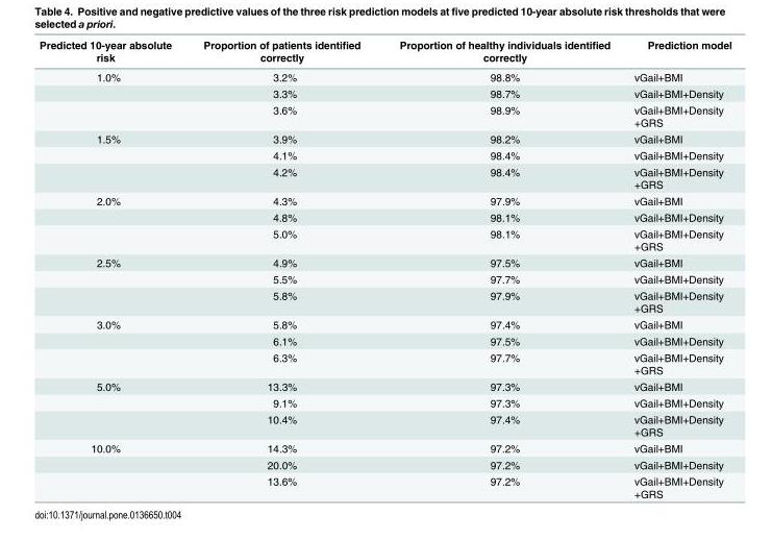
<table><thead><tr><td>Predicted 10-year absolute risk</td><td>Proportion of patients identified correctly</td><td>Proportion of healthy individuals identified correctly</td><td>Prediction model</td></tr></thead><tbody><tr><td rowspan="3">1.0%</td><td>3.2%</td><td>98.8%</td><td>vGail+BMI</td></tr><tr><td>3.3%</td><td>98.7%</td><td>vGail+BMI+Density</td></tr><tr><td>3.6%</td><td>98.9%</td><td>vGail+BMI+Density +GRS</td></tr><tr><td rowspan="3">1.5%</td><td>3.9%</td><td>98.2%</td><td>vGail+BMI</td></tr><tr><td>4.1%</td><td>98.4%</td><td>vGail+BMI+Density</td></tr><tr><td>4.2%</td><td>98.4%</td><td>vGail+BMI+Density +GRS</td></tr><tr><td rowspan="3">2.0%</td><td>4.3%</td><td>97.9%</td><td>vGail+BMI</td></tr><tr><td>4.8%</td><td>98.1%</td><td>vGail+BMI+Density</td></tr><tr><td>5.0%</td><td>98.1%</td><td>vGail+BMI+Density +GRS</td></tr><tr><td rowspan="3">2.5%</td><td>4.9%</td><td>97.5%</td><td>vGail+BMI</td></tr><tr><td>5.5%</td><td>97.7%</td><td>vGail+BMI+Density</td></tr><tr><td>5.8%</td><td>97.9%</td><td>vGail+BMI+Density +GRS</td></tr><tr><td rowspan="3">3.0%</td><td>5.8%</td><td>97.4%</td><td>vGail+BMI</td></tr><tr><td>6.1%</td><td>97.5%</td><td>vGail+BMI+Density</td></tr><tr><td>6.3%</td><td>97.7%</td><td>vGail+BMI+Density +GRS</td></tr><tr><td rowspan="3">5.0%</td><td>13.3%</td><td>97.3%</td><td>vGail+BMI</td></tr><tr><td>9.1%</td><td>97.3%</td><td>vGail+BMI+Density</td></tr><tr><td>10.4%</td><td>97.4%</td><td>vGail+BMI+Density +GRS</td></tr><tr><td rowspan="3">10.0%</td><td>14.3%</td><td>97.2%</td><td>vGail+BMI</td></tr><tr><td>20.0%</td><td>97.2%</td><td>vGail+BMI+Density</td></tr><tr><td>13.6%</td><td>97.2%</td><td>vGail+BMI+Density +GRS</td></tr></tbody></table>